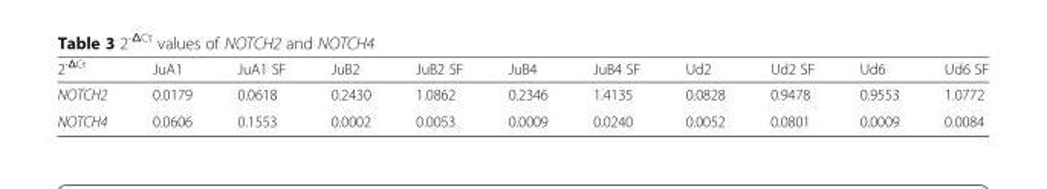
<table><thead><tr><td>2<sup>-ΔCt</sup></td><td>JuA1</td><td>JuA1 SF</td><td>JuB2</td><td>JuB2 SF</td><td>JuB4</td><td>JuB4 SF</td><td>Ud2</td><td>Ud2 SF</td><td>Ud6</td><td>Ud6 SF</td></tr></thead><tbody><tr><td>NOTCH2</td><td>0.0179</td><td>0.0618</td><td>0.2430</td><td>1.0862</td><td>0.2346</td><td>1.4135</td><td>0.0828</td><td>0.9478</td><td>0.9553</td><td>1.0772</td></tr><tr><td>NOTCH4</td><td>0.0606</td><td>0.1553</td><td>0.0002</td><td>0.0053</td><td>0.0009</td><td>0.0240</td><td>0.0052</td><td>0.0801</td><td>0.0009</td><td>0.0084</td></tr></tbody></table>